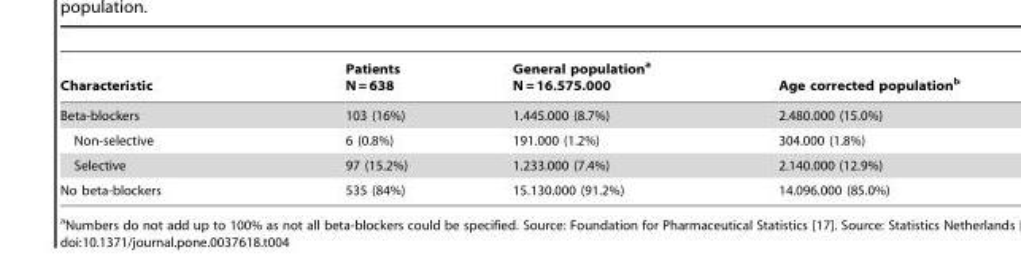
<table><thead><tr><td>Characteristic</td><td>Patients N = 638</td><td>General population<sup>a</sup> N = 16.575.000</td><td>Age corrected population<sup>b</sup></td></tr></thead><tbody><tr><td>Beta-blockers</td><td>103 (16%)</td><td>1.445.000 (8.7%)</td><td>2.480.000 (15.0%)</td></tr><tr><td>Non-selective</td><td>6 (0.8%)</td><td>191.000 (1.2%)</td><td>304.000 (1.8%)</td></tr><tr><td>Selective</td><td>97 (15.2%)</td><td>1.233.000 (7.4%)</td><td>2.140.000 (12.9%)</td></tr><tr><td>No beta-blockers</td><td>535 (84%)</td><td>15.130.000 (91.2%)</td><td>14.096.000 (85.0%)</td></tr></tbody></table>